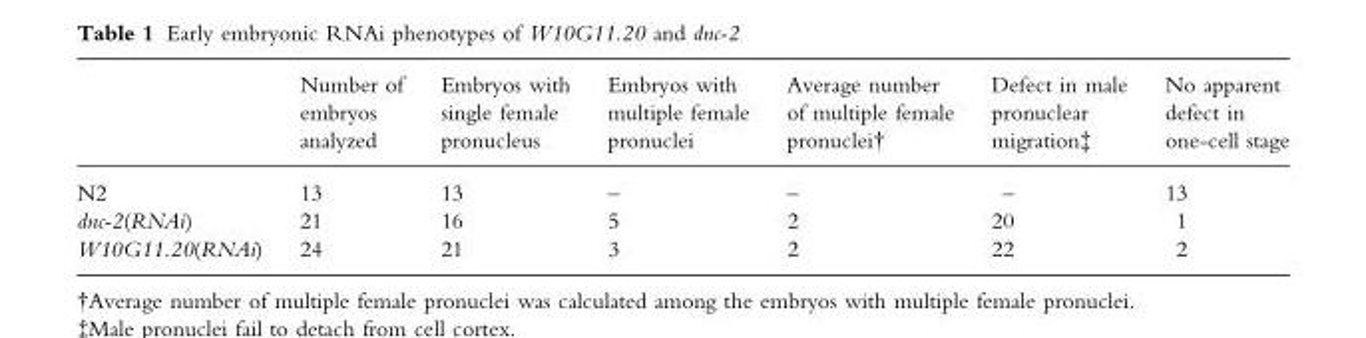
<table><thead><tr><td></td><td>Number of embryos analyzed</td><td>Embryos with single female pronucleus</td><td>Embryos with multiple female pronuclei</td><td>Average number of multiple female pronuclei†</td><td>Defect in male pronuclear migration‡</td><td>No apparent defect in one-cell stage</td></tr></thead><tbody><tr><td>N2</td><td>13</td><td>13</td><td>–</td><td>–</td><td>–</td><td>13</td></tr><tr><td>dnc-2(RNAi)</td><td>21</td><td>16</td><td>5</td><td>2</td><td>20</td><td>1</td></tr><tr><td>W10G11.20(RNAi)</td><td>24</td><td>21</td><td>3</td><td>2</td><td>22</td><td>2</td></tr></tbody></table>